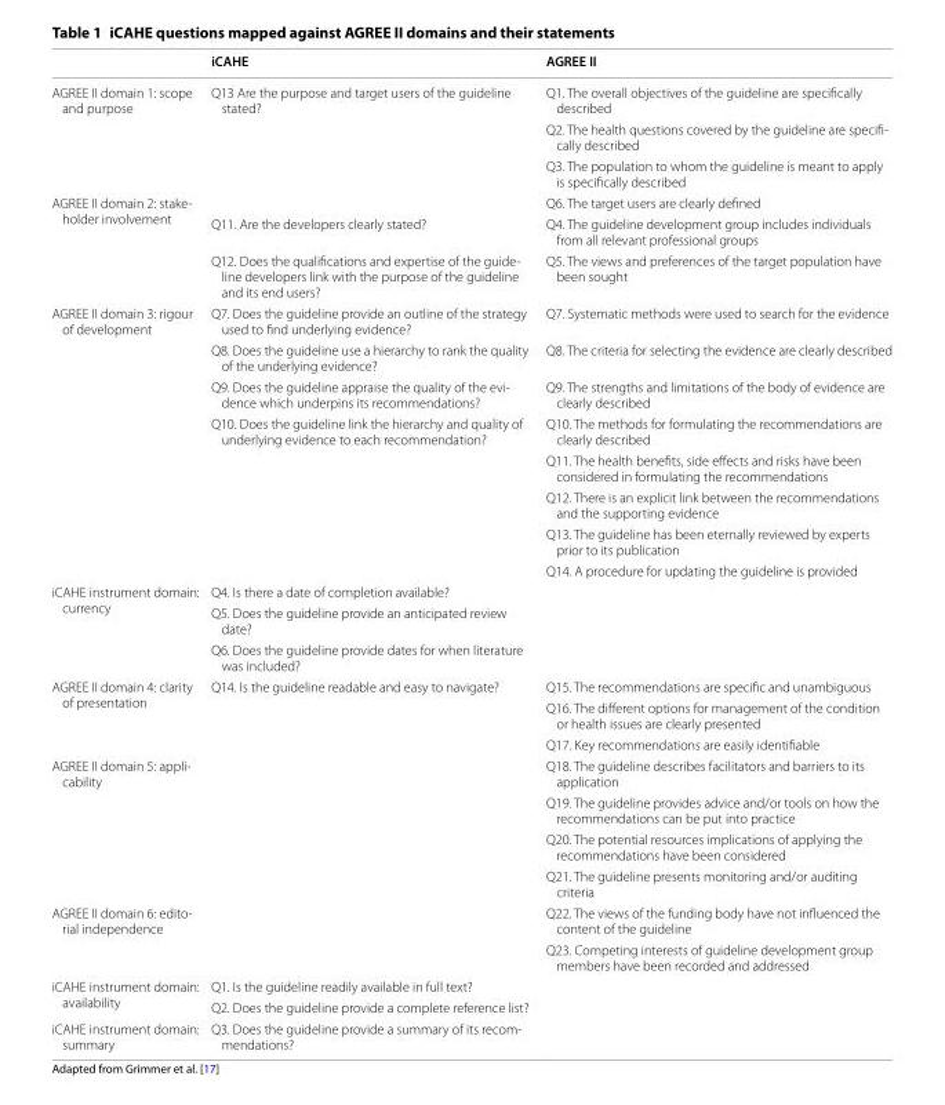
<table><thead><tr><td></td><td>iCAHE</td><td>AGREE II</td></tr></thead><tbody><tr><td rowspan="3">AGREE II domain 1: scope and purpose</td><td>Q13 Are the purpose and target users of the guideline stated?</td><td>Q1. The overall objectives of the guideline are specifically described</td></tr><tr><td></td><td>Q2. The health questions covered by the guideline are specifi- cally described</td></tr><tr><td></td><td>Q3. The population to whom the guideline is meant to apply is specifically described</td></tr><tr><td rowspan="3">AGREE II domain 2: stake- holder involvement</td><td></td><td>Q6. The target users are clearly defined</td></tr><tr><td>Q11. Are the developers clearly stated?</td><td>Q4. The guideline development group includes individuals from all relevant professional groups</td></tr><tr><td>Q12. Does the qualifications and expertise of the guide- line developers link with the purpose of the guideline and its end users?</td><td>Q5. The views and preferences of the target population have been sought</td></tr><tr><td rowspan="8">AGREE II domain 3: rigour of development</td><td>Q7. Does the guideline provide an outline of the strategy used to find underlying evidence?</td><td>Q7. Systematic methods were used to search for the evidence</td></tr><tr><td>Q8. Does the guideline use a hierarchy to rank the quality of the underlying evidence?</td><td>Q8. The criteria for selecting the evidence are clearly described</td></tr><tr><td>Q9. Does the guideline appraise the quality of the evi- dence which underpins its recommendations?</td><td>Q9. The strengths and limitations of the body of evidence are clearly described</td></tr><tr><td>Q10. Does the guideline link the hierarchy and quality of underlying evidence to each recommendation?</td><td>Q10. The methods for formulating the recommendations are clearly described</td></tr><tr><td></td><td>Q11. The health benefits, side effects and risks have been considered in formulating the recommendations</td></tr><tr><td></td><td>Q12. There is an explicit link between the recommendations and the supporting evidence</td></tr><tr><td></td><td>Q13. The guideline has been eternally reviewed by experts prior to its publication</td></tr><tr><td></td><td>Q14. A procedure for updating the guideline is provided</td></tr><tr><td rowspan="3">iCAHE instrument domain: currency</td><td>Q4. Is there a date of completion available?</td><td></td></tr><tr><td>Q5. Does the guideline provide an anticipated review date?</td><td></td></tr><tr><td>Q6. Does the guideline provide dates for when literature was included?</td><td></td></tr><tr><td rowspan="3">AGREE II domain 4: clarity of presentation</td><td>Q14. Is the guideline readable and easy to navigate?</td><td>Q15. The recommendations are specific and unambiguous</td></tr><tr><td></td><td>Q16. The different options for management of the condition or health issues are clearly presented</td></tr><tr><td></td><td>Q17. Key recommendations are easily identifiable</td></tr><tr><td rowspan="4">AGREE II domain 5: appli- cability</td><td></td><td>Q18. The guideline describes facilitators and barriers to its application</td></tr><tr><td></td><td>Q19. The guideline provides advice and/or tools on how the recommendations can be put into practice</td></tr><tr><td></td><td>Q20. The potential resources implications of applying the recommendations have been considered</td></tr><tr><td></td><td>Q21. The guideline presents monitoring and/or auditing criteria</td></tr><tr><td rowspan="2">AGREE II domain 6: edito- rial independence</td><td></td><td>Q22. The views of the funding body have not influenced the content of the guideline</td></tr><tr><td></td><td>Q23. Competing interests of guideline development group members have been recorded and addressed</td></tr><tr><td rowspan="2">iCAHE instrument domain: availability</td><td>Q1. Is the guideline readily available in full text?</td><td></td></tr><tr><td>Q2. Does the guideline provide a complete reference list?</td><td></td></tr><tr><td>iCAHE instrument domain: summary</td><td>Q3. Does the guideline provide a summary of its recom- mendations?</td><td></td></tr></tbody></table>